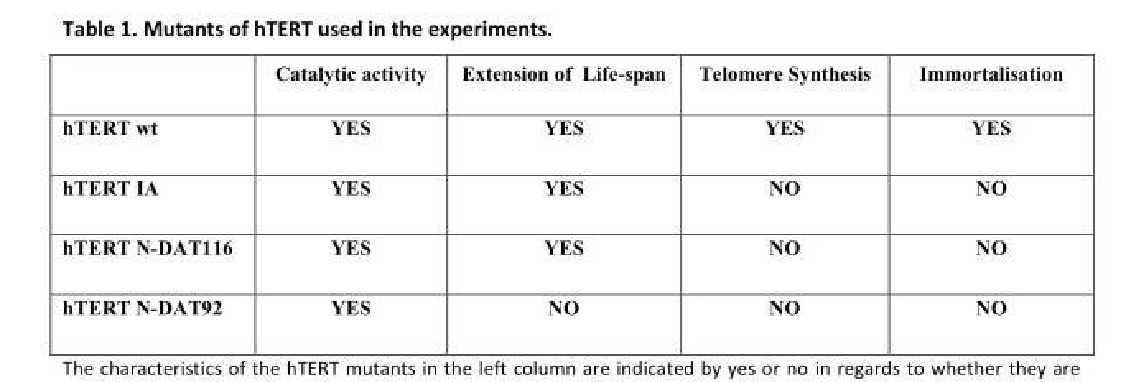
<table><thead><tr><td></td><td>Catalytic activity</td><td>Extension of Life-span</td><td>Telomere Synthesis</td><td>Immortalisation</td></tr></thead><tbody><tr><td>hTERT wt</td><td>YES</td><td>YES</td><td>YES</td><td>YES</td></tr><tr><td>hTERT IA</td><td>YES</td><td>YES</td><td>NO</td><td>NO</td></tr><tr><td>hTERT N-DAT116</td><td>YES</td><td>YES</td><td>NO</td><td>NO</td></tr><tr><td>hTERT N-DAT92</td><td>YES</td><td>NO</td><td>NO</td><td>NO</td></tr></tbody></table>